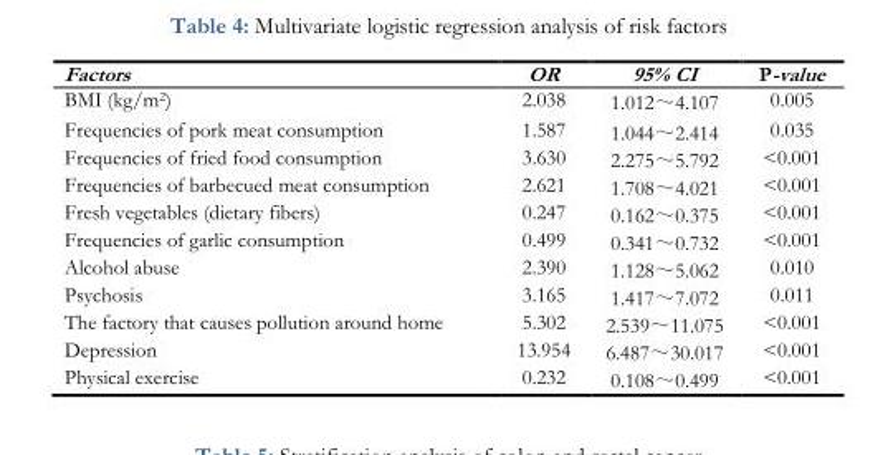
<table><thead><tr><td>Factors</td><td>OR</td><td>95% CI</td><td>P-value</td></tr></thead><tbody><tr><td>BMI (kg/m<sup>2</sup>)</td><td>2.038</td><td>1.012～4.107</td><td>0.005</td></tr><tr><td>Frequencies of pork meat consumption</td><td>1.587</td><td>1.044～2.414</td><td>0.035</td></tr><tr><td>Frequencies of fried food consumption</td><td>3.630</td><td>2.275～5.792</td><td>&lt;0.001</td></tr><tr><td>Frequencies of barbecued meat consumption</td><td>2.621</td><td>1.708～4.021</td><td>&lt;0.001</td></tr><tr><td>Fresh vegetables (dietary fibers)</td><td>0.247</td><td>0.162～0.375</td><td>&lt;0.001</td></tr><tr><td>Frequencies of garlic consumption</td><td>0.499</td><td>0.341～0.732</td><td>&lt;0.001</td></tr><tr><td>Alcohol abuse</td><td>2.390</td><td>1.128～5.062</td><td>0.010</td></tr><tr><td>Psychosis</td><td>3.165</td><td>1.417～7.072</td><td>0.011</td></tr><tr><td>The factory that causes pollution around home</td><td>5.302</td><td>2.539～11.075</td><td>&lt;0.001</td></tr><tr><td>Depression</td><td>13.954</td><td>6.487～30.017</td><td>&lt;0.001</td></tr><tr><td>Physical exercise</td><td>0.232</td><td>0.108～0.499</td><td>&lt;0.001</td></tr></tbody></table>